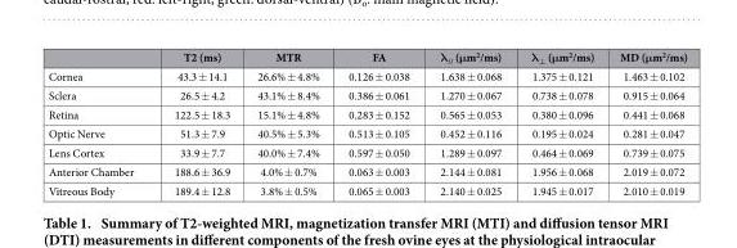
<table><thead><tr><td></td><td>T2 (ms)</td><td>MTR</td><td>FA</td><td>λ<sub>//</sub> (μm<sup>2</sup>/ms)</td><td>λ<sub>⊥</sub> (μm<sup>2</sup>/ms)</td><td>MD (μm<sup>2</sup>/ms)</td></tr></thead><tbody><tr><td>Cornea</td><td>43.3 ± 14.1</td><td>26.6% ± 4.8%</td><td>0.126 ± 0.038</td><td>1.638 ± 0.068</td><td>1.375 ± 0.121</td><td>1.463 ± 0.102</td></tr><tr><td>Sclera</td><td>26.5 ± 4.2</td><td>43.1% ± 8.4%</td><td>0.386 ± 0.061</td><td>1.270 ± 0.067</td><td>0.738 ± 0.078</td><td>0.915 ± 0.064</td></tr><tr><td>Retina</td><td>122.5 ± 18.3</td><td>15.1% ± 4.8%</td><td>0.283 ± 0.152</td><td>0.565 ± 0.053</td><td>0.380 ± 0.096</td><td>0.441 ± 0.068</td></tr><tr><td>Optic Nerve</td><td>51.3 ± 7.9</td><td>40.5% ± 5.3%</td><td>0.513 ± 0.105</td><td>0.452 ± 0.116</td><td>0.195 ± 0.024</td><td>0.281 ± 0.047</td></tr><tr><td>Lens Cortex</td><td>33.9 ± 7.7</td><td>40.0% ± 7.4%</td><td>0.597 ± 0.050</td><td>1.289 ± 0.097</td><td>0.464 ± 0.069</td><td>0.739 ± 0.075</td></tr><tr><td>Anterior Chamber</td><td>188.6 ± 36.9</td><td>4.0% ± 0.7%</td><td>0.063 ± 0.003</td><td>2.144 ± 0.081</td><td>1.956 ± 0.068</td><td>2.019 ± 0.072</td></tr><tr><td>Vitreous Body</td><td>189.4 ± 12.8</td><td>3.8% ± 0.5%</td><td>0.065 ± 0.003</td><td>2.140 ± 0.025</td><td>1.945 ± 0.017</td><td>2.010 ± 0.019</td></tr></tbody></table>